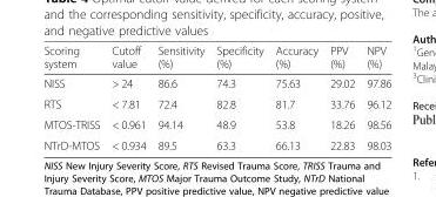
<table><thead><tr><td>Scoring system</td><td>Cutoff value</td><td>Sensitivity (%)</td><td>Specificity (%)</td><td>Accuracy (%)</td><td>PPV (%)</td><td>NPV (%)</td></tr></thead><tbody><tr><td>NISS</td><td>&gt; 24</td><td>86.6</td><td>74.3</td><td>75.63</td><td>29.02</td><td>97.86</td></tr><tr><td>RTS</td><td>&lt; 7.81</td><td>72.4</td><td>82.8</td><td>81.7</td><td>33.76</td><td>96.12</td></tr><tr><td>MTOS-TRISS</td><td>&lt; 0.961</td><td>94.14</td><td>48.9</td><td>53.8</td><td>18.26</td><td>98.56</td></tr><tr><td>NTrD-MTOS</td><td>&lt; 0.934</td><td>89.5</td><td>63.3</td><td>66.13</td><td>22.83</td><td>98.03</td></tr></tbody></table>